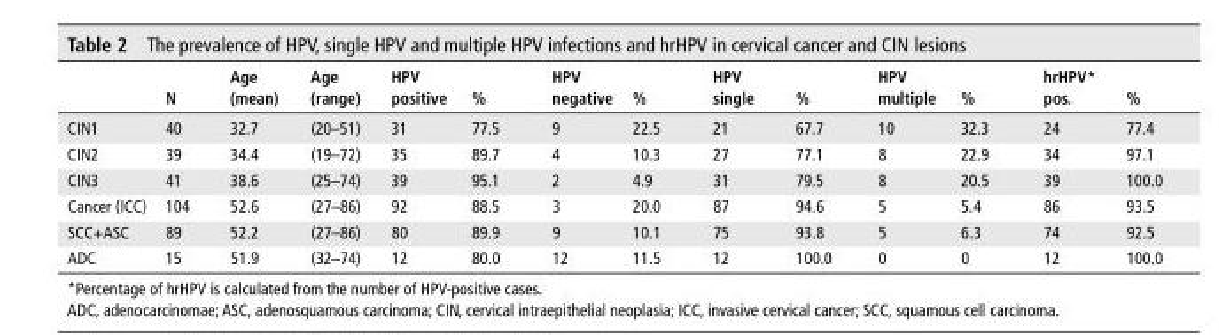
<table><thead><tr><td></td><td>n</td><td>Age (mean)</td><td>Age (range)</td><td>hPV positive</td><td>%</td><td>hPV negative</td><td>%</td><td>hPV single</td><td>%</td><td>hPV multiple</td><td>%</td><td>hrhPV* pos.</td><td>%</td></tr></thead><tbody><tr><td>CIN1</td><td>40</td><td>32.7</td><td>(20–51)</td><td>31</td><td>77.5</td><td>9</td><td>22.5</td><td>21</td><td>67.7</td><td>10</td><td>32.3</td><td>24</td><td>77.4</td></tr><tr><td>CIN2</td><td>39</td><td>34.4</td><td>(19–72)</td><td>35</td><td>89.7</td><td>4</td><td>10.3</td><td>27</td><td>77.1</td><td>8</td><td>22.9</td><td>34</td><td>97.1</td></tr><tr><td>CIN3</td><td>41</td><td>38.6</td><td>(25–74)</td><td>39</td><td>95.1</td><td>2</td><td>4.9</td><td>31</td><td>79.5</td><td>8</td><td>20.5</td><td>39</td><td>100.0</td></tr><tr><td>Cancer (ICC)</td><td>104</td><td>52.6</td><td>(27–86)</td><td>92</td><td>88.5</td><td>3</td><td>20.0</td><td>87</td><td>94.6</td><td>5</td><td>5.4</td><td>86</td><td>93.5</td></tr><tr><td>SCC+ASC</td><td>89</td><td>52.2</td><td>(27–86)</td><td>80</td><td>89.9</td><td>9</td><td>10.1</td><td>75</td><td>93.8</td><td>5</td><td>6.3</td><td>74</td><td>92.5</td></tr><tr><td>ADC</td><td>15</td><td>51.9</td><td>(32–74)</td><td>12</td><td>80.0</td><td>12</td><td>11.5</td><td>12</td><td>100.0</td><td>0</td><td>0</td><td>12</td><td>100.0</td></tr></tbody></table>